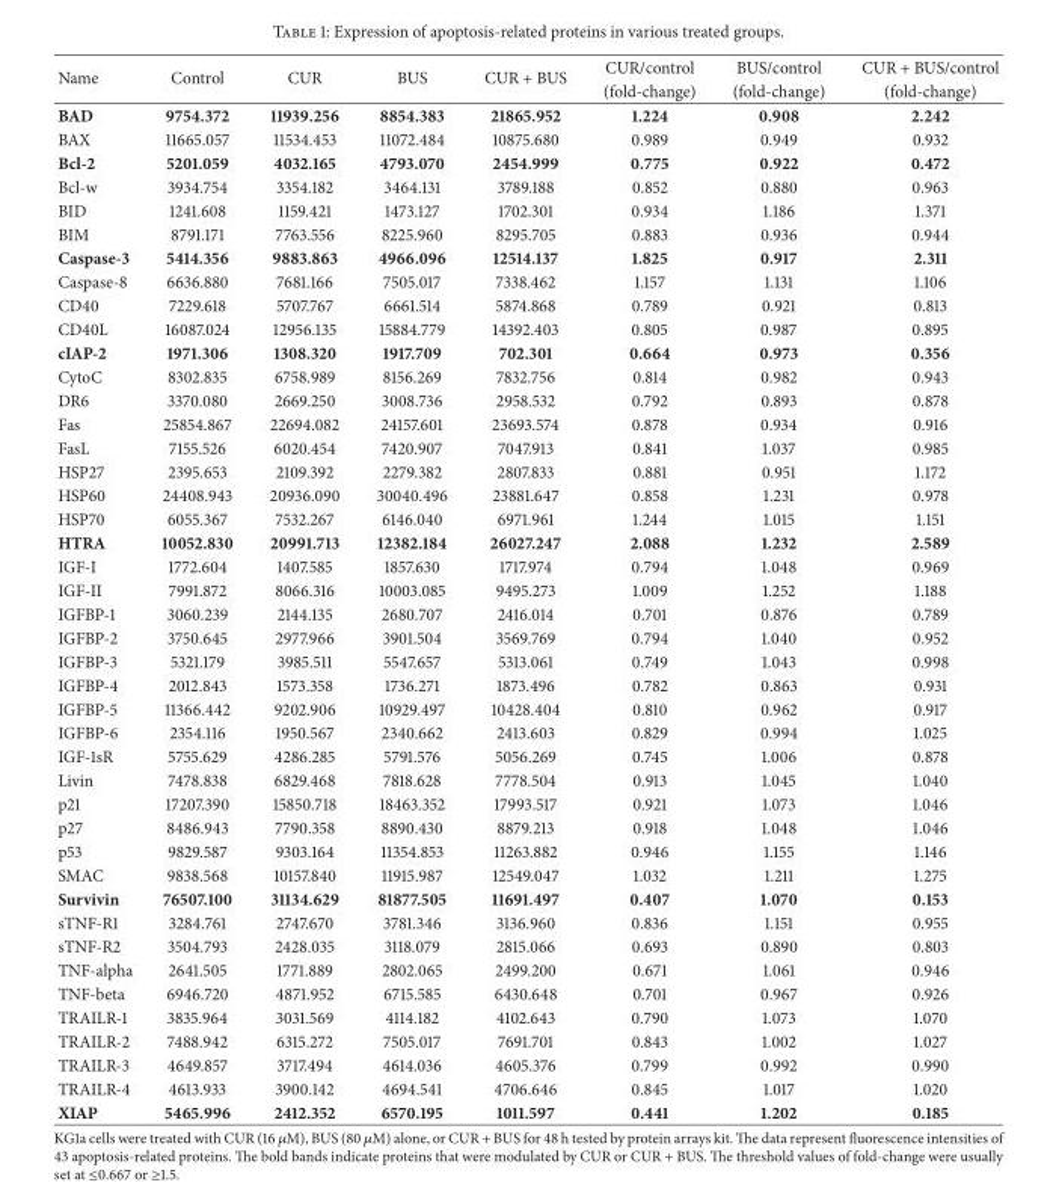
<table><thead><tr><td rowspan="2">Name</td><td rowspan="2">Control</td><td rowspan="2">CUR</td><td rowspan="2">BUS</td><td rowspan="2">CUR + BUS</td><td rowspan="2">CUR/control (fold-change)</td><td rowspan="2">BUS/control (fold-change)</td><td rowspan="2">CUR + BUS/control (fold-change)</td></tr><tr></tr></thead><tbody><tr><td>BAD</td><td>9754.372</td><td>11939.256</td><td>8854.383</td><td>21865.952</td><td>1.224</td><td>0.908</td><td>2.242</td></tr><tr><td>BAX</td><td>11665.057</td><td>11534.453</td><td>11072.484</td><td>10875.680</td><td>0.989</td><td>0.949</td><td>0.932</td></tr><tr><td>Bcl-2</td><td>5201.059</td><td>4032.165</td><td>4793.070</td><td>2454.999</td><td>0.775</td><td>0.922</td><td>0.472</td></tr><tr><td>Bcl-w</td><td>3934.754</td><td>3354.182</td><td>3464.131</td><td>3789.188</td><td>0.852</td><td>0.880</td><td>0.963</td></tr><tr><td>BID</td><td>1241.608</td><td>1159.421</td><td>1473.127</td><td>1702.301</td><td>0.934</td><td>1.186</td><td>1.371</td></tr><tr><td>BIM</td><td>8791.171</td><td>7763.556</td><td>8225.960</td><td>8295.705</td><td>0.883</td><td>0.936</td><td>0.944</td></tr><tr><td>Caspase-3</td><td>5414.356</td><td>9883.863</td><td>4966.096</td><td>12514.137</td><td>1.825</td><td>0.917</td><td>2.311</td></tr><tr><td>Caspase-8</td><td>6636.880</td><td>7681.166</td><td>7505.017</td><td>7338.462</td><td>1.157</td><td>1.131</td><td>1.106</td></tr><tr><td>CD40</td><td>7229.618</td><td>5707.767</td><td>6661.514</td><td>5874.868</td><td>0.789</td><td>0.921</td><td>0.813</td></tr><tr><td>CD40L</td><td>16087.024</td><td>12956.135</td><td>15884.779</td><td>14392.403</td><td>0.805</td><td>0.987</td><td>0.895</td></tr><tr><td>cIAP-2</td><td>1971.306</td><td>1308.320</td><td>1917.709</td><td>702.301</td><td>0.664</td><td>0.973</td><td>0.356</td></tr><tr><td>CytoC</td><td>8302.835</td><td>6758.989</td><td>8156.269</td><td>7832.756</td><td>0.814</td><td>0.982</td><td>0.943</td></tr><tr><td>DR6</td><td>3370.080</td><td>2669.250</td><td>3008.736</td><td>2958.532</td><td>0.792</td><td>0.893</td><td>0.878</td></tr><tr><td>Fas</td><td>25854.867</td><td>22694.082</td><td>24157.601</td><td>23693.574</td><td>0.878</td><td>0.934</td><td>0.916</td></tr><tr><td>FasL</td><td>7155.526</td><td>6020.454</td><td>7420.907</td><td>7047.913</td><td>0.841</td><td>1.037</td><td>0.985</td></tr><tr><td>HSP27</td><td>2395.653</td><td>2109.392</td><td>2279.382</td><td>2807.833</td><td>0.881</td><td>0.951</td><td>1.172</td></tr><tr><td>HSP60</td><td>24408.943</td><td>20936.090</td><td>30040.496</td><td>23881.647</td><td>0.858</td><td>1.231</td><td>0.978</td></tr><tr><td>HSP70</td><td>6055.367</td><td>7532.267</td><td>6146.040</td><td>6971.961</td><td>1.244</td><td>1.015</td><td>1.151</td></tr><tr><td>HTRA</td><td>10052.830</td><td>20991.713</td><td>12382.184</td><td>26027.247</td><td>2.088</td><td>1.232</td><td>2.589</td></tr><tr><td>IGF-I</td><td>1772.604</td><td>1407.585</td><td>1857.630</td><td>1717.974</td><td>0.794</td><td>1.048</td><td>0.969</td></tr><tr><td>IGF-II</td><td>7991.872</td><td>8066.316</td><td>10003.085</td><td>9495.273</td><td>1.009</td><td>1.252</td><td>1.188</td></tr><tr><td>IGFBP-1</td><td>3060.239</td><td>2144.135</td><td>2680.707</td><td>2416.014</td><td>0.701</td><td>0.876</td><td>0.789</td></tr><tr><td>IGFBP-2</td><td>3750.645</td><td>2977.966</td><td>3901.504</td><td>3569.769</td><td>0.794</td><td>1.040</td><td>0.952</td></tr><tr><td>IGFBP-3</td><td>5321.179</td><td>3985.511</td><td>5547.657</td><td>5313.061</td><td>0.749</td><td>1.043</td><td>0.998</td></tr><tr><td>IGFBP-4</td><td>2012.843</td><td>1573.358</td><td>1736.271</td><td>1873.496</td><td>0.782</td><td>0.863</td><td>0.931</td></tr><tr><td>IGFBP-5</td><td>11366.442</td><td>9202.906</td><td>10929.497</td><td>10428.404</td><td>0.810</td><td>0.962</td><td>0.917</td></tr><tr><td>IGFBP-6</td><td>2354.116</td><td>1950.567</td><td>2340.662</td><td>2413.603</td><td>0.829</td><td>0.994</td><td>1.025</td></tr><tr><td>IGF-1sR</td><td>5755.629</td><td>4286.285</td><td>5791.576</td><td>5056.269</td><td>0.745</td><td>1.006</td><td>0.878</td></tr><tr><td>Livin</td><td>7478.838</td><td>6829.468</td><td>7818.628</td><td>7778.504</td><td>0.913</td><td>1.045</td><td>1.040</td></tr><tr><td>p21</td><td>17207.390</td><td>15850.718</td><td>18463.352</td><td>17993.517</td><td>0.921</td><td>1.073</td><td>1.046</td></tr><tr><td>p27</td><td>8486.943</td><td>7790.358</td><td>8890.430</td><td>8879.213</td><td>0.918</td><td>1.048</td><td>1.046</td></tr><tr><td>p53</td><td>9829.587</td><td>9303.164</td><td>11354.853</td><td>11263.882</td><td>0.946</td><td>1.155</td><td>1.146</td></tr><tr><td>SMAC</td><td>9838.568</td><td>10157.840</td><td>11915.987</td><td>12549.047</td><td>1.032</td><td>1.211</td><td>1.275</td></tr><tr><td>Survivin</td><td>76507.100</td><td>31134.629</td><td>81877.505</td><td>11691.497</td><td>0.407</td><td>1.070</td><td>0.153</td></tr><tr><td>sTNF-R1</td><td>3284.761</td><td>2747.670</td><td>3781.346</td><td>3136.960</td><td>0.836</td><td>1.151</td><td>0.955</td></tr><tr><td>sTNF-R2</td><td>3504.793</td><td>2428.035</td><td>3118.079</td><td>2815.066</td><td>0.693</td><td>0.890</td><td>0.803</td></tr><tr><td>TNF-alpha</td><td>2641.505</td><td>1771.889</td><td>2802.065</td><td>2499.200</td><td>0.671</td><td>1.061</td><td>0.946</td></tr><tr><td>TNF-beta</td><td>6946.720</td><td>4871.952</td><td>6715.585</td><td>6430.648</td><td>0.701</td><td>0.967</td><td>0.926</td></tr><tr><td>TRAILR-1</td><td>3835.964</td><td>3031.569</td><td>4114.182</td><td>4102.643</td><td>0.790</td><td>1.073</td><td>1.070</td></tr><tr><td>TRAILR-2</td><td>7488.942</td><td>6315.272</td><td>7505.017</td><td>7691.701</td><td>0.843</td><td>1.002</td><td>1.027</td></tr><tr><td>TRAILR-3</td><td>4649.857</td><td>3717.494</td><td>4614.036</td><td>4605.376</td><td>0.799</td><td>0.992</td><td>0.990</td></tr><tr><td>TRAILR-4</td><td>4613.933</td><td>3900.142</td><td>4694.541</td><td>4706.646</td><td>0.845</td><td>1.017</td><td>1.020</td></tr><tr><td>XIAP</td><td>5465.996</td><td>2412.352</td><td>6570.195</td><td>1011.597</td><td>0.441</td><td>1.202</td><td>0.185</td></tr></tbody></table>